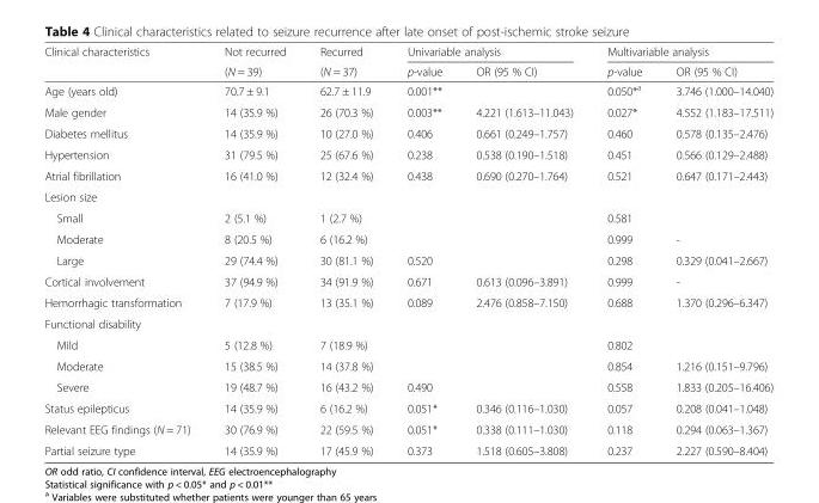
<table><thead><tr><td rowspan="2">Clinical characteristics</td><td rowspan="2">Not recurred (N = 39)</td><td rowspan="2">Recurred (N = 37)</td><td colspan="2">Univariable analysis</td><td colspan="2">Multivariable analysis</td></tr><tr><td>p-value</td><td>OR (95 % CI)</td><td>p-value</td><td>OR (95 % CI)</td></tr></thead><tbody><tr><td>Age (years old)</td><td>70.7 ± 9.1</td><td>62.7 ± 11.9</td><td>0.001**</td><td></td><td>0.050*<sup>a</sup></td><td>3.746 (1.000–14.040)</td></tr><tr><td>Male gender</td><td>14 (35.9 %)</td><td>26 (70.3 %)</td><td>0.003**</td><td>4.221 (1.613–11.043)</td><td>0.027*</td><td>4.552 (1.183–17.511)</td></tr><tr><td>Diabetes mellitus</td><td>14 (35.9 %)</td><td>10 (27.0 %)</td><td>0.406</td><td>0.661 (0.249–1.757)</td><td>0.460</td><td>0.578 (0.135–2.476)</td></tr><tr><td>Hypertension</td><td>31 (79.5 %)</td><td>25 (67.6 %)</td><td>0.238</td><td>0.538 (0.190–1.518)</td><td>0.451</td><td>0.566 (0.129–2.488)</td></tr><tr><td>Atrial fibrillation</td><td>16 (41.0 %)</td><td>12 (32.4 %)</td><td>0.438</td><td>0.690 (0.270–1.764)</td><td>0.521</td><td>0.647 (0.171–2.443)</td></tr><tr><td colspan="7">Lesion size</td></tr><tr><td>Small</td><td>2 (5.1 %)</td><td>1 (2.7 %)</td><td></td><td></td><td>0.581</td><td></td></tr><tr><td>Moderate</td><td>8 (20.5 %)</td><td>6 (16.2 %)</td><td></td><td></td><td>0.999</td><td>-</td></tr><tr><td>Large</td><td>29 (74.4 %)</td><td>30 (81.1 %)</td><td>0.520</td><td></td><td>0.298</td><td>0.329 (0.041–2.667)</td></tr><tr><td>Cortical involvement</td><td>37 (94.9 %)</td><td>34 (91.9 %)</td><td>0.671</td><td>0.613 (0.096–3.891)</td><td>0.999</td><td>-</td></tr><tr><td>Hemorrhagic transformation</td><td>7 (17.9 %)</td><td>13 (35.1 %)</td><td>0.089</td><td>2.476 (0.858–7.150)</td><td>0.688</td><td>1.370 (0.296–6.347)</td></tr><tr><td colspan="7">Functional disability</td></tr><tr><td>Mild</td><td>5 (12.8 %)</td><td>7 (18.9 %)</td><td></td><td></td><td>0.802</td><td></td></tr><tr><td>Moderate</td><td>15 (38.5 %)</td><td>14 (37.8 %)</td><td></td><td></td><td>0.854</td><td>1.216 (0.151–9.796)</td></tr><tr><td>Severe</td><td>19 (48.7 %)</td><td>16 (43.2 %)</td><td>0.490</td><td></td><td>0.558</td><td>1.833 (0.205–16.406)</td></tr><tr><td>Status epilepticus</td><td>14 (35.9 %)</td><td>6 (16.2 %)</td><td>0.051*</td><td>0.346 (0.116–1.030)</td><td>0.057</td><td>0.208 (0.041–1.048)</td></tr><tr><td>Relevant EEG findings (N = 71)</td><td>30 (76.9 %)</td><td>22 (59.5 %)</td><td>0.051*</td><td>0.338 (0.111–1.030)</td><td>0.118</td><td>0.294 (0.063–1.367)</td></tr><tr><td>Partial seizure type</td><td>14 (35.9 %)</td><td>17 (45.9 %)</td><td>0.373</td><td>1.518 (0.605–3.808)</td><td>0.237</td><td>2.227 (0.590–8.404)</td></tr></tbody></table>